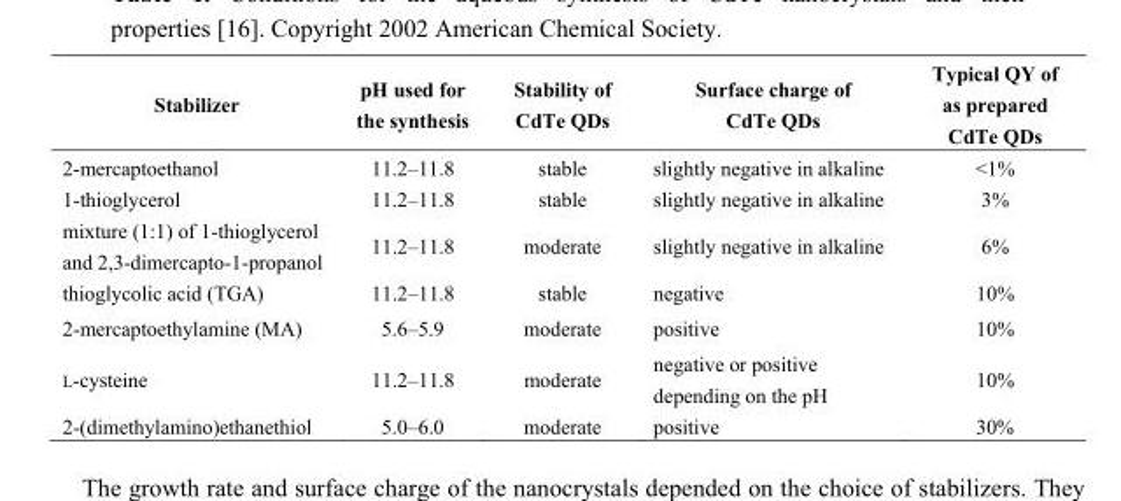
<table><thead><tr><td>Stabilizer</td><td>pH used for the synthesis</td><td>Stability of CdTe QDs</td><td>Surface charge of CdTe QDs</td><td>Typical QY of as prepared CdTe QDs</td></tr></thead><tbody><tr><td>2-mercaptoethanol</td><td>11.2–11.8</td><td>stable</td><td>slightly negative in alkaline</td><td>&lt;1%</td></tr><tr><td>1-thioglycerol</td><td>11.2–11.8</td><td>stable</td><td>slightly negative in alkaline</td><td>3%</td></tr><tr><td>mixture (1:1) of 1-thioglycerol and 2,3-dimercapto-1-propanol</td><td>11.2–11.8</td><td>moderate</td><td>slightly negative in alkaline</td><td>6%</td></tr><tr><td>thioglycolic acid (TGA)</td><td>11.2–11.8</td><td>stable</td><td>negative</td><td>10%</td></tr><tr><td>2-mercaptoethylamine (MA)</td><td>5.6–5.9</td><td>moderate</td><td>positive</td><td>10%</td></tr><tr><td>L-cysteine</td><td>11.2–11.8</td><td>moderate</td><td>negative or positive depending on the pH</td><td>10%</td></tr><tr><td>2-(dimethylamino)ethanethiol</td><td>5.0–6.0</td><td>moderate</td><td>positive</td><td>30%</td></tr></tbody></table>